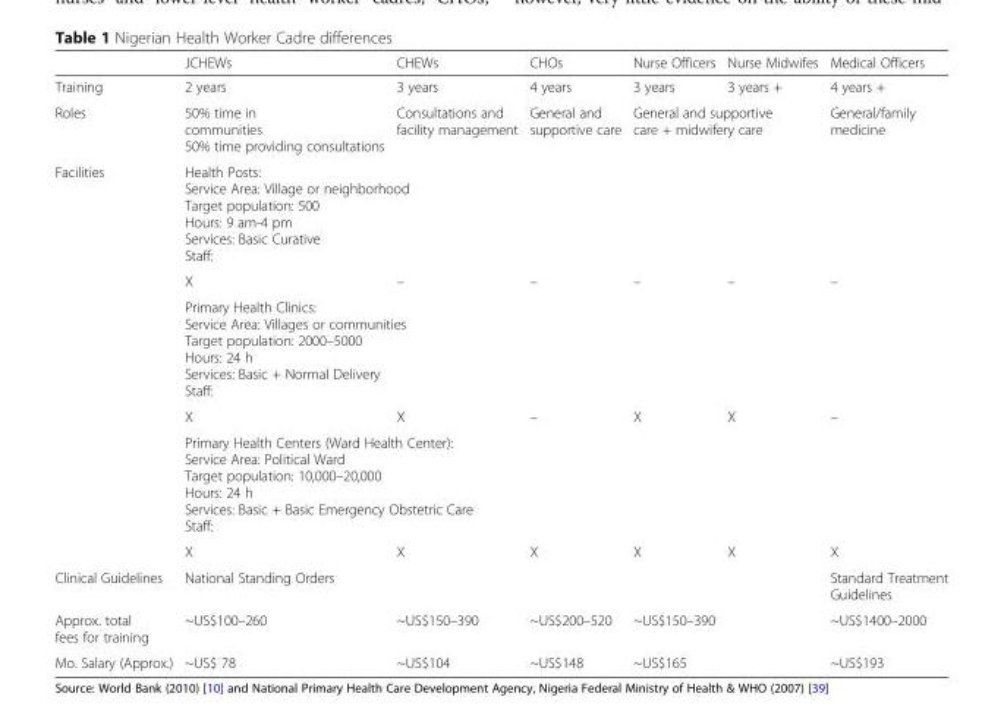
<table><thead><tr><td></td><td>JCHEWs</td><td>CHEWs</td><td>CHOs</td><td>Nurse Officers</td><td>Nurse Midwifes</td><td>Medical Officers</td></tr></thead><tbody><tr><td>Training</td><td>2 years</td><td>3 years</td><td>4 years</td><td>3 years</td><td>3 years +</td><td>4 years +</td></tr><tr><td>Roles</td><td>50% time in communities 50% time providing consultations</td><td>Consultations and facility management</td><td>General and supportive care</td><td colspan="2">General and supportive care + midwifery care</td><td>General/family medicine</td></tr><tr><td rowspan="6">Facilities</td><td colspan="6">Health Posts: Service Area: Village or neighborhood Target population: 500 Hours: 9 am-4 pm Services: Basic Curative Staff:</td></tr><tr><td>X</td><td>–</td><td>–</td><td>–</td><td>–</td><td>–</td></tr><tr><td colspan="6">Primary Health Clinics: Service Area: Villages or communities Target population: 2000–5000 Hours: 24 h Services: Basic + Normal Delivery Staff:</td></tr><tr><td>X</td><td>X</td><td>–</td><td>X</td><td>X</td><td>–</td></tr><tr><td colspan="6">Primary Health Centers (Ward Health Center): Service Area: Political Ward Target population: 10,000–20,000 Hours: 24 h Services: Basic + Basic Emergency Obstetric Care Staff:</td></tr><tr><td>X</td><td>X</td><td>X</td><td>X</td><td>X</td><td>X</td></tr><tr><td>Clinical Guidelines</td><td colspan="3">National Standing Orders</td><td colspan="2"></td><td>Standard Treatment Guidelines</td></tr><tr><td>Approx. total fees for training</td><td>~US$100–260</td><td>~US$150–390</td><td>~US$200–520</td><td colspan="2">~US$150–390</td><td>~US$1400–2000</td></tr><tr><td>Mo. Salary (Approx.)</td><td>~US$ 78</td><td>~US$104</td><td>~US$148</td><td colspan="2">~US$165</td><td>~US$193</td></tr></tbody></table>